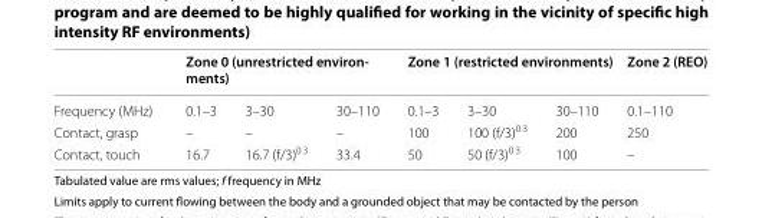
<table><thead><tr><td rowspan="2">Frequency (MHz)</td><td colspan="3">Zone 0 (unrestricted environ- ments)</td><td colspan="3">Zone 1 (restricted environments)</td><td rowspan="2">Zone 2 (REO) 0.1–110</td></tr><tr><td>0.1–3</td><td>3–30</td><td>30–110</td><td>0.1–3</td><td>3–30</td><td>30–110</td></tr></thead><tbody><tr><td>Contact, grasp</td><td>–</td><td>–</td><td>–</td><td>100</td><td>100 (f/3)<sup>0.3</sup></td><td>200</td><td>250</td></tr><tr><td>Contact, touch</td><td>16.7</td><td>16.7 (f/3)<sup>0.3</sup></td><td>33.4</td><td>50</td><td>50 (f/3)<sup>0.3</sup></td><td>100</td><td>–</td></tr></tbody></table>